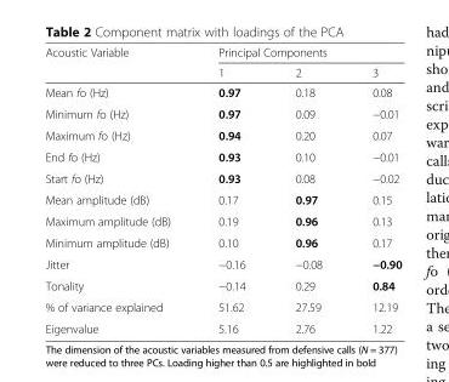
<table><thead><tr><td rowspan="2">Acoustic Variable</td><td colspan="3">Principal Components</td></tr><tr><td>1</td><td>2</td><td>3</td></tr></thead><tbody><tr><td>Mean fo (Hz)</td><td>0.97</td><td>0.18</td><td>0.08</td></tr><tr><td>Minimum fo (Hz)</td><td>0.97</td><td>0.09</td><td>−0.01</td></tr><tr><td>Maximum fo (Hz)</td><td>0.94</td><td>0.20</td><td>0.07</td></tr><tr><td>End fo (Hz)</td><td>0.93</td><td>0.10</td><td>−0.01</td></tr><tr><td>Start fo (Hz)</td><td>0.93</td><td>0.08</td><td>−0.02</td></tr><tr><td>Mean amplitude (dB)</td><td>0.17</td><td>0.97</td><td>0.15</td></tr><tr><td>Maximum amplitude (dB)</td><td>0.19</td><td>0.96</td><td>0.13</td></tr><tr><td>Minimum amplitude (dB)</td><td>0.10</td><td>0.96</td><td>0.17</td></tr><tr><td>Jitter</td><td>−0.16</td><td>−0.08</td><td>−0.90</td></tr><tr><td>Tonality</td><td>−0.14</td><td>0.29</td><td>0.84</td></tr><tr><td>% of variance explained</td><td>51.62</td><td>27.59</td><td>12.19</td></tr><tr><td>Eigenvalue</td><td>5.16</td><td>2.76</td><td>1.22</td></tr></tbody></table>